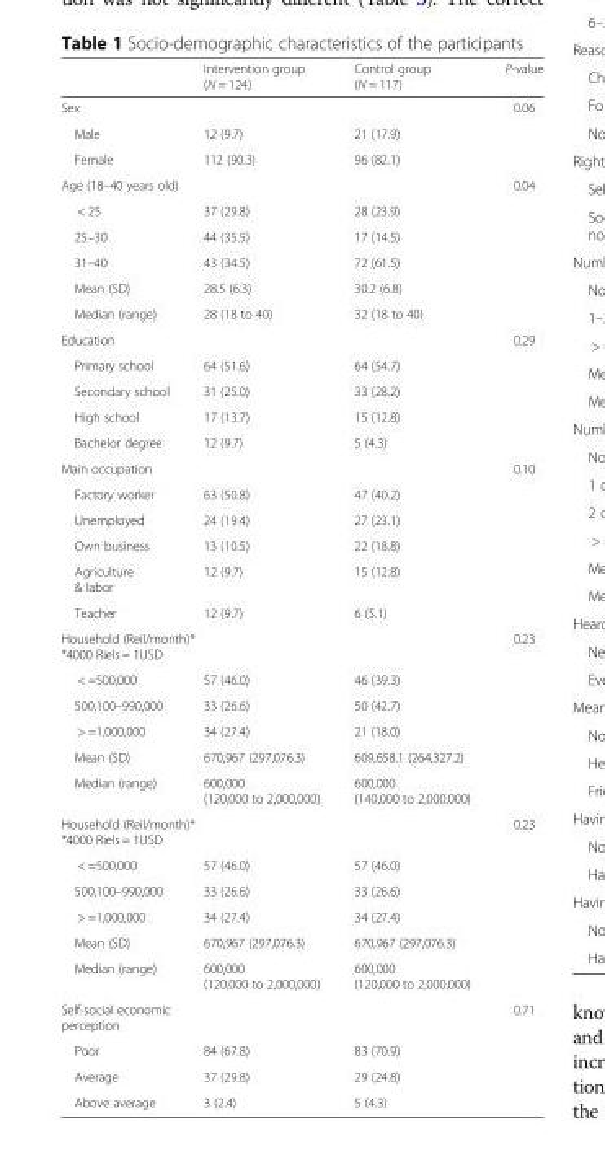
<table><thead><tr><td></td><td>Intervention group (N = 124)</td><td>Control group (N = 117)</td><td>P-value</td></tr></thead><tbody><tr><td colspan="3">Sex</td><td rowspan="3">0.06</td></tr><tr><td>Male</td><td>12 (9.7)</td><td>21 (17.9)</td></tr><tr><td>Female</td><td>112 (90.3)</td><td>96 (82.1)</td></tr><tr><td colspan="3">Age (18–40 years old)</td><td rowspan="6">0.04</td></tr><tr><td>&lt; 25</td><td>37 (29.8)</td><td>28 (23.9)</td></tr><tr><td>25–30</td><td>44 (35.5)</td><td>17 (14.5)</td></tr><tr><td>31–40</td><td>43 (34.5)</td><td>72 (61.5)</td></tr><tr><td>Mean (SD)</td><td>28.5 (6.3)</td><td>30.2 (6.8)</td></tr><tr><td>Median (range)</td><td>28 (18 to 40)</td><td>32 (18 to 40)</td></tr><tr><td colspan="3">Education</td><td rowspan="5">0.29</td></tr><tr><td>Primary school</td><td>64 (51.6)</td><td>64 (54.7)</td></tr><tr><td>Secondary school</td><td>31 (25.0)</td><td>33 (28.2)</td></tr><tr><td>High school</td><td>17 (13.7)</td><td>15 (12.8)</td></tr><tr><td>Bachelor degree</td><td>12 (9.7)</td><td>5 (4.3)</td></tr><tr><td colspan="3">Main occupation</td><td rowspan="6">0.10</td></tr><tr><td>Factory worker</td><td>63 (50.8)</td><td>47 (40.2)</td></tr><tr><td>Unemployed</td><td>24 (19.4)</td><td>27 (23.1)</td></tr><tr><td>Own business</td><td>13 (10.5)</td><td>22 (18.8)</td></tr><tr><td>Agriculture &amp; labor</td><td>12 (9.7)</td><td>15 (12.8)</td></tr><tr><td>Teacher</td><td>12 (9.7)</td><td>6 (5.1)</td></tr><tr><td colspan="3">Household (Reil/month)* *4000 Riels = 1USD</td><td>0.23</td></tr><tr><td>&lt; =500,000</td><td>57 (46.0)</td><td>46 (39.3)</td><td></td></tr><tr><td>500,100–990,000</td><td>33 (26.6)</td><td>50 (42.7)</td><td></td></tr><tr><td>&gt; =1,000,000</td><td>34 (27.4)</td><td>21 (18.0)</td><td></td></tr><tr><td>Mean (SD)</td><td>670,967 (297,076.3)</td><td>609,658.1 (264,327.2)</td><td></td></tr><tr><td>Median (range)</td><td>600,000 (120,000 to 2,000,000)</td><td>600,000 (140,000 to 2,000,000)</td><td></td></tr><tr><td colspan="3">Household (Reil/month)* *4000 Riels = 1USD</td><td rowspan="6">0.23</td></tr><tr><td>&lt; =500,000</td><td>57 (46.0)</td><td>57 (46.0)</td></tr><tr><td>500,100–990,000</td><td>33 (26.6)</td><td>33 (26.6)</td></tr><tr><td>&gt; =1,000,000</td><td>34 (27.4)</td><td>34 (27.4)</td></tr><tr><td>Mean (SD)</td><td>670,967 (297,076.3)</td><td>670,967 (297,076.3)</td></tr><tr><td>Median (range)</td><td>600,000 (120,000 to 2,000,000)</td><td>600,000 (120,000 to 2,000,000)</td></tr><tr><td colspan="3">Self-social economic perception</td><td rowspan="4">0.71</td></tr><tr><td>Poor</td><td>84 (67.8)</td><td>83 (70.9)</td></tr><tr><td>Average</td><td>37 (29.8)</td><td>29 (24.8)</td></tr><tr><td>Above average</td><td>3 (2.4)</td><td>5 (4.3)</td></tr></tbody></table>